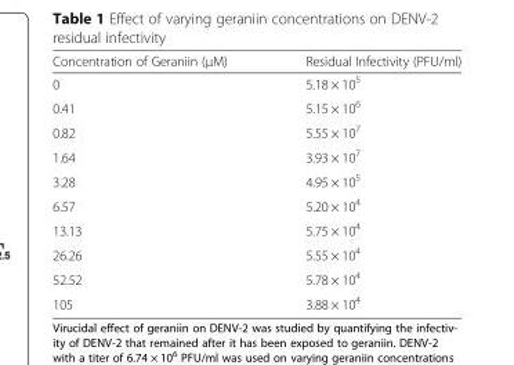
<table><thead><tr><td>Concentration of Geraniin (μM)</td><td>Residual Infectivity (PFU/ml)</td></tr></thead><tbody><tr><td>0</td><td>5.18 × 10<sup>5</sup></td></tr><tr><td>0.41</td><td>5.15 × 10<sup>6</sup></td></tr><tr><td>0.82</td><td>5.55 × 10<sup>7</sup></td></tr><tr><td>1.64</td><td>3.93 × 10<sup>7</sup></td></tr><tr><td>3.28</td><td>4.95 × 10<sup>5</sup></td></tr><tr><td>6.57</td><td>5.20 × 10<sup>4</sup></td></tr><tr><td>13.13</td><td>5.75 × 10<sup>4</sup></td></tr><tr><td>26.26</td><td>5.55 × 10<sup>4</sup></td></tr><tr><td>52.52</td><td>5.78 × 10<sup>4</sup></td></tr><tr><td>105</td><td>3.88 × 10<sup>4</sup></td></tr></tbody></table>